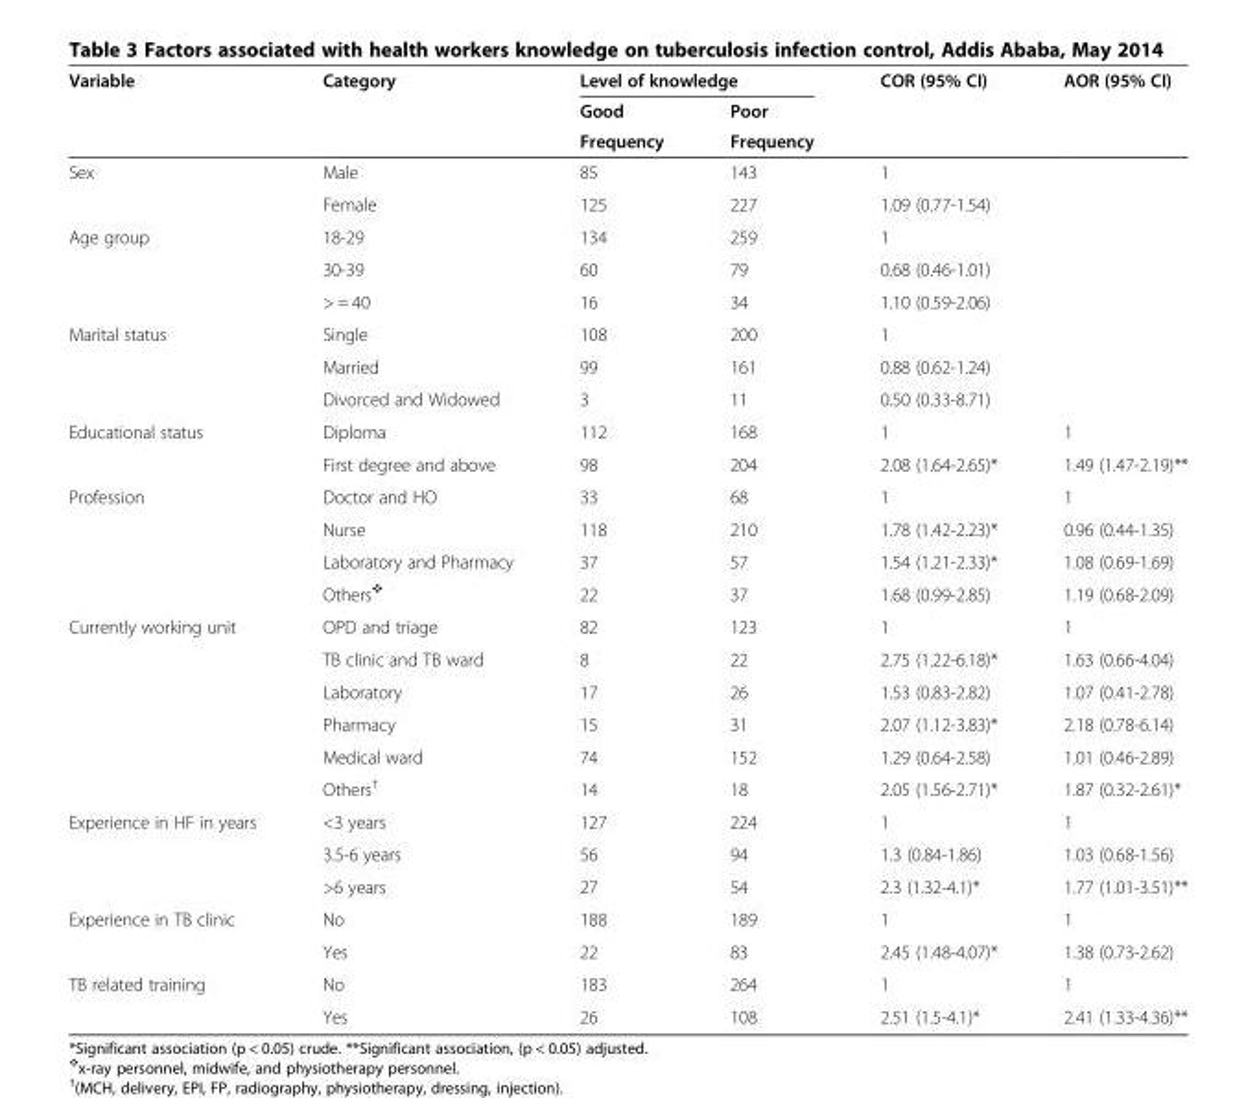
<table><thead><tr><td rowspan="3">Variable</td><td rowspan="3">Category</td><td colspan="2">Level of knowledge</td><td rowspan="3">COR (95% CI)</td><td rowspan="3">AOR (95% CI)</td></tr><tr><td rowspan="2">Good Frequency</td><td rowspan="2">Poor Frequency</td></tr><tr></tr></thead><tbody><tr><td rowspan="2">Sex</td><td>Male</td><td>85</td><td>143</td><td>1</td><td></td></tr><tr><td>Female</td><td>125</td><td>227</td><td>1.09 (0.77-1.54)</td><td></td></tr><tr><td rowspan="3">Age group</td><td>18-29</td><td>134</td><td>259</td><td>1</td><td></td></tr><tr><td>30-39</td><td>60</td><td>79</td><td>0.68 (0.46-1.01)</td><td></td></tr><tr><td>&gt; = 40</td><td>16</td><td>34</td><td>1.10 (0.59-2.06)</td><td></td></tr><tr><td rowspan="3">Marital status</td><td>Single</td><td>108</td><td>200</td><td>1</td><td></td></tr><tr><td>Married</td><td>99</td><td>161</td><td>0.88 (0.62-1.24)</td><td></td></tr><tr><td>Divorced and Widowed</td><td>3</td><td>11</td><td>0.50 (0.33-8.71)</td><td></td></tr><tr><td rowspan="2">Educational status</td><td>Diploma</td><td>112</td><td>168</td><td>1</td><td>1</td></tr><tr><td>First degree and above</td><td>98</td><td>204</td><td>2.08 (1.64-2.65)*</td><td>1.49 (1.47-2.19)**</td></tr><tr><td rowspan="4">Profession</td><td>Doctor and HO</td><td>33</td><td>68</td><td>1</td><td>1</td></tr><tr><td>Nurse</td><td>118</td><td>210</td><td>1.78 (1.42-2.23)*</td><td>0.96 (0.44-1.35)</td></tr><tr><td>Laboratory and Pharmacy</td><td>37</td><td>57</td><td>1.54 (1.21-2.33)*</td><td>1.08 (0.69-1.69)</td></tr><tr><td>Others<sup>❖</sup></td><td>22</td><td>37</td><td>1.68 (0.99-2.85)</td><td>1.19 (0.68-2.09)</td></tr><tr><td rowspan="6">Currently working unit</td><td>OPD and triage</td><td>82</td><td>123</td><td>1</td><td>1</td></tr><tr><td>TB clinic and TB ward</td><td>8</td><td>22</td><td>2.75 (1.22-6.18)*</td><td>1.63 (0.66-4.04)</td></tr><tr><td>Laboratory</td><td>17</td><td>26</td><td>1.53 (0.83-2.82)</td><td>1.07 (0.41-2.78)</td></tr><tr><td>Pharmacy</td><td>15</td><td>31</td><td>2.07 (1.12-3.83)*</td><td>2.18 (0.78-6.14)</td></tr><tr><td>Medical ward</td><td>74</td><td>152</td><td>1.29 (0.64-2.58)</td><td>1.01 (0.46-2.89)</td></tr><tr><td>Others<sup>†</sup></td><td>14</td><td>18</td><td>2.05 (1.56-2.71)*</td><td>1.87 (0.32-2.61)*</td></tr><tr><td rowspan="3">Experience in HF in years</td><td>&lt;3 years</td><td>127</td><td>224</td><td>1</td><td>1</td></tr><tr><td>3.5-6 years</td><td>56</td><td>94</td><td>1.3 (0.84-1.86)</td><td>1.03 (0.68-1.56)</td></tr><tr><td>&gt;6 years</td><td>27</td><td>54</td><td>2.3 (1.32-4.1)*</td><td>1.77 (1.01-3.51)**</td></tr><tr><td rowspan="2">Experience in TB clinic</td><td>No</td><td>188</td><td>189</td><td>1</td><td>1</td></tr><tr><td>Yes</td><td>22</td><td>83</td><td>2.45 (1.48-4.07)*</td><td>1.38 (0.73-2.62)</td></tr><tr><td rowspan="2">TB related training</td><td>No</td><td>183</td><td>264</td><td>1</td><td>1</td></tr><tr><td>Yes</td><td>26</td><td>108</td><td>2.51 (1.5-4.1)*</td><td>2.41 (1.33-4.36)**</td></tr></tbody></table>